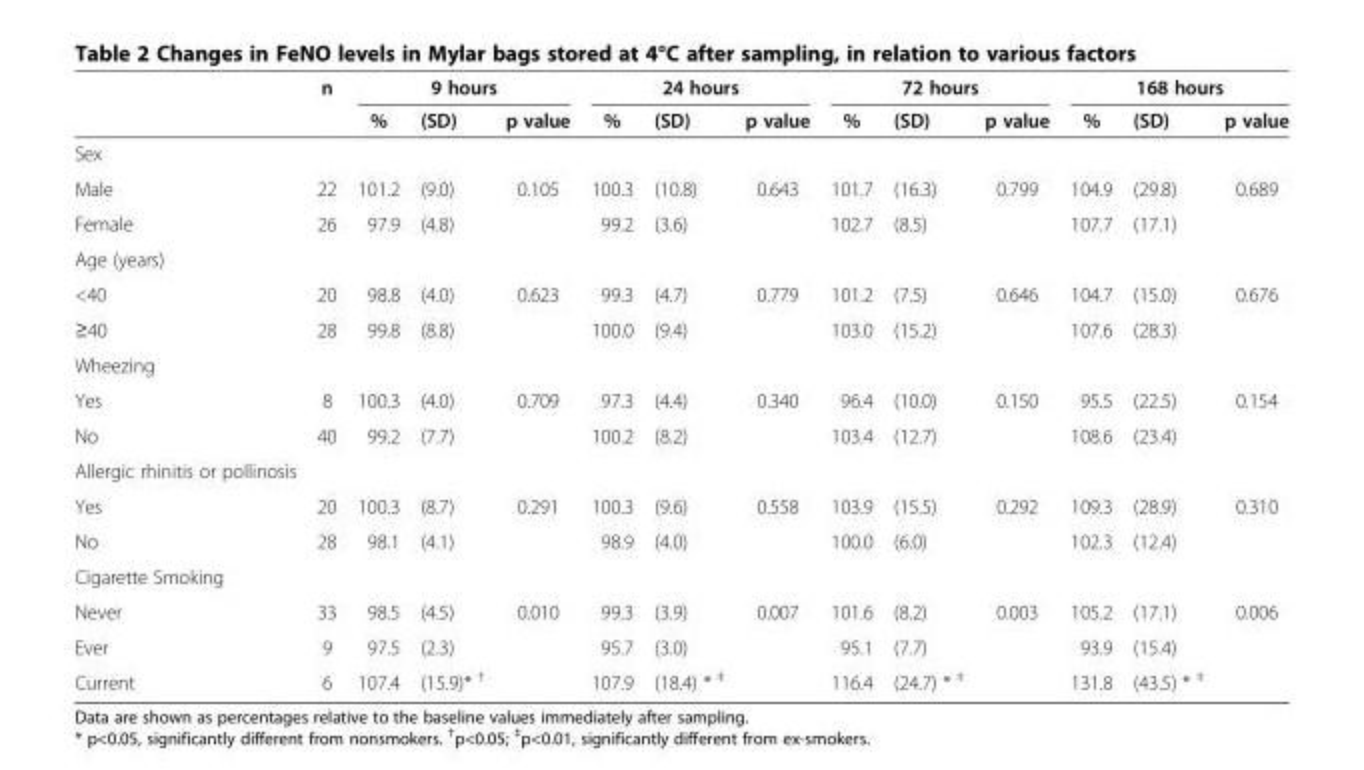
<table><thead><tr><td rowspan="2"></td><td rowspan="2">n</td><td colspan="3">9 hours</td><td colspan="3">24 hours</td><td colspan="3">72 hours</td><td colspan="3">168 hours</td></tr><tr><td>%</td><td>(SD)</td><td>p value</td><td>%</td><td>(SD)</td><td>p value</td><td>%</td><td>(SD)</td><td>p value</td><td>%</td><td>(SD)</td><td>p value</td></tr></thead><tbody><tr><td colspan="14">Sex</td></tr><tr><td>Male</td><td>22</td><td>101.2</td><td>(9.0)</td><td>0.105</td><td>100.3</td><td>(10.8)</td><td>0.643</td><td>101.7</td><td>(16.3)</td><td>0.799</td><td>104.9</td><td>(29.8)</td><td>0.689</td></tr><tr><td>Female</td><td>26</td><td>97.9</td><td>(4.8)</td><td></td><td>99.2</td><td>(3.6)</td><td></td><td>102.7</td><td>(8.5)</td><td></td><td>107.7</td><td>(17.1)</td><td></td></tr><tr><td colspan="14">Age (years)</td></tr><tr><td>&lt;40</td><td>20</td><td>98.8</td><td>(4.0)</td><td>0.623</td><td>99.3</td><td>(4.7)</td><td>0.779</td><td>101.2</td><td>(7.5)</td><td>0.646</td><td>104.7</td><td>(15.0)</td><td>0.676</td></tr><tr><td>≥40</td><td>28</td><td>99.8</td><td>(8.8)</td><td></td><td>100.0</td><td>(9.4)</td><td></td><td>103.0</td><td>(15.2)</td><td></td><td>107.6</td><td>(28.3)</td><td></td></tr><tr><td colspan="14">Wheezing</td></tr><tr><td>Yes</td><td>8</td><td>100.3</td><td>(4.0)</td><td>0.709</td><td>97.3</td><td>(4.4)</td><td>0.340</td><td>96.4</td><td>(10.0)</td><td>0.150</td><td>95.5</td><td>(22.5)</td><td>0.154</td></tr><tr><td>No</td><td>40</td><td>99.2</td><td>(7.7)</td><td></td><td>100.2</td><td>(8.2)</td><td></td><td>103.4</td><td>(12.7)</td><td></td><td>108.6</td><td>(23.4)</td><td></td></tr><tr><td colspan="14">Allergic rhinitis or pollinosis</td></tr><tr><td>Yes</td><td>20</td><td>100.3</td><td>(8.7)</td><td>0.291</td><td>100.3</td><td>(9.6)</td><td>0.558</td><td>103.9</td><td>(15.5)</td><td>0.292</td><td>109.3</td><td>(28.9)</td><td>0.310</td></tr><tr><td>No</td><td>28</td><td>98.1</td><td>(4.1)</td><td></td><td>98.9</td><td>(4.0)</td><td></td><td>100.0</td><td>(6.0)</td><td></td><td>102.3</td><td>(12.4)</td><td></td></tr><tr><td colspan="14">Cigarette Smoking</td></tr><tr><td>Never</td><td>33</td><td>98.5</td><td>(4.5)</td><td>0.010</td><td>99.3</td><td>(3.9)</td><td>0.007</td><td>101.6</td><td>(8.2)</td><td>0.003</td><td>105.2</td><td>(17.1)</td><td>0.006</td></tr><tr><td>Ever</td><td>9</td><td>97.5</td><td>(2.3)</td><td></td><td>95.7</td><td>(3.0)</td><td></td><td>95.1</td><td>(7.7)</td><td></td><td>93.9</td><td>(15.4)</td><td></td></tr><tr><td>Current</td><td>6</td><td>107.4</td><td>(15.9)* <sup>†</sup></td><td></td><td>107.9</td><td>(18.4) * <sup>‡</sup></td><td></td><td>116.4</td><td>(24.7) * <sup>‡</sup></td><td></td><td>131.8</td><td>(43.5) * <sup>‡</sup></td><td></td></tr></tbody></table>